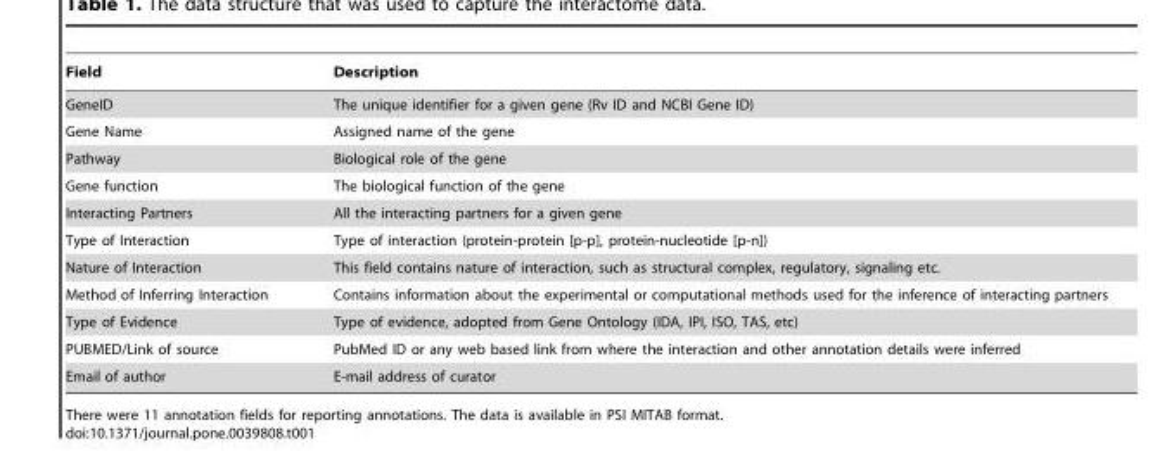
<table><thead><tr><td>Field</td><td>Description</td></tr></thead><tbody><tr><td>GeneID</td><td>The unique identifier for a given gene (Rv ID and NCBI Gene ID)</td></tr><tr><td>Gene Name</td><td>Assigned name of the gene</td></tr><tr><td>Pathway</td><td>Biological role of the gene</td></tr><tr><td>Gene function</td><td>The biological function of the gene</td></tr><tr><td>Interacting Partners</td><td>All the interacting partners for a given gene</td></tr><tr><td>Type of Interaction</td><td>Type of interaction (protein-protein [p-p], protein-nucleotide [p-n])</td></tr><tr><td>Nature of Interaction</td><td>This field contains nature of interaction, such as structural complex, regulatory, signaling etc.</td></tr><tr><td>Method of Inferring Interaction</td><td>Contains information about the experimental or computational methods used for the inference of interacting partners</td></tr><tr><td>Type of Evidence</td><td>Type of evidence, adopted from Gene Ontology (IDA, IPI, ISO, TAS, etc)</td></tr><tr><td>PUBMED/Link of source</td><td>PubMed ID or any web based link from where the interaction and other annotation details were inferred</td></tr><tr><td>Email of author</td><td>E-mail address of curator</td></tr></tbody></table>